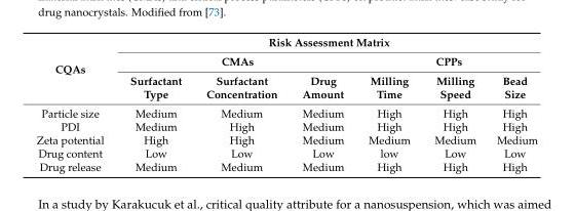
<table><thead><tr><td rowspan="3">CQAs</td><td colspan="6">Risk Assessment Matrix</td></tr><tr><td colspan="3">CMAs</td><td colspan="3">CPPs</td></tr><tr><td>Surfactant Type</td><td>Surfactant Concentration</td><td>Drug Amount</td><td>Milling Time</td><td>Milling Speed</td><td>Bead Size</td></tr></thead><tbody><tr><td>Particle size</td><td>Medium</td><td>Medium</td><td>Medium</td><td>High</td><td>High</td><td>High</td></tr><tr><td>PDI</td><td>Medium</td><td>High</td><td>Medium</td><td>High</td><td>High</td><td>High</td></tr><tr><td>Zeta potential</td><td>High</td><td>High</td><td>Medium</td><td>Medium</td><td>Medium</td><td>Medium</td></tr><tr><td>Drug content</td><td>Low</td><td>Low</td><td>Low</td><td>low</td><td>Low</td><td>Low</td></tr><tr><td>Drug release</td><td>Medium</td><td>Medium</td><td>Medium</td><td>High</td><td>High</td><td>High</td></tr></tbody></table>